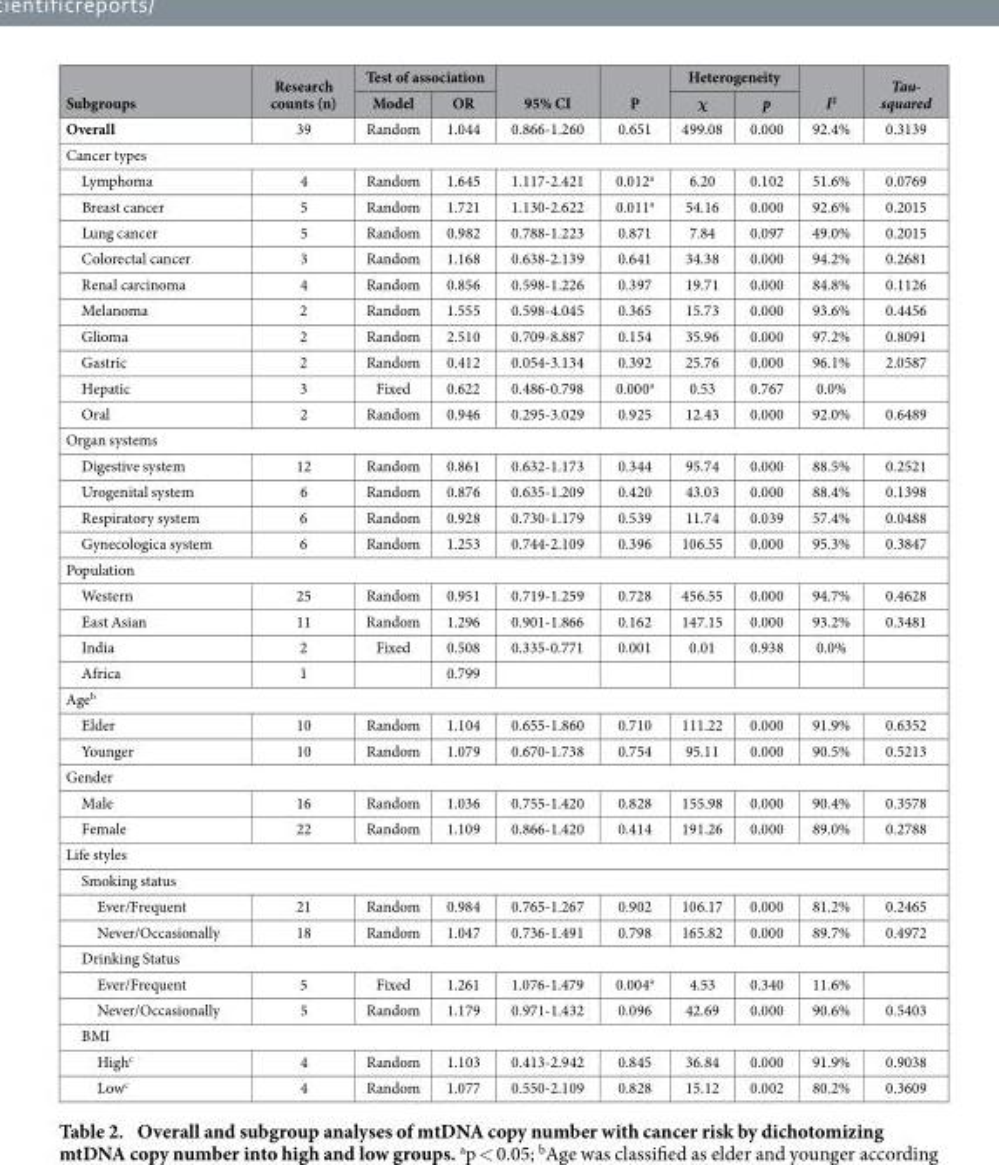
<table><thead><tr><td rowspan="2">Subgroups</td><td rowspan="2">Research counts (n)</td><td colspan="2">Test of association</td><td rowspan="2">95% CI</td><td rowspan="2">P</td><td colspan="2">Heterogeneity</td><td rowspan="2">I<sup>2</sup></td><td rowspan="2">Tau- squared</td></tr><tr><td>Model</td><td>OR</td><td>χ</td><td>p</td></tr></thead><tbody><tr><td>Overall</td><td>39</td><td>Random</td><td>1.044</td><td>0.866-1.260</td><td>0.651</td><td>499.08</td><td>0.000</td><td>92.4%</td><td>0.3139</td></tr><tr><td colspan="10">Cancer types</td></tr><tr><td>Lymphoma</td><td>4</td><td>Random</td><td>1.645</td><td>1.117-2.421</td><td>0.012<sup>a</sup></td><td>6.20</td><td>0.102</td><td>51.6%</td><td>0.0769</td></tr><tr><td>Breast cancer</td><td>5</td><td>Random</td><td>1.721</td><td>1.130-2.622</td><td>0.011<sup>a</sup></td><td>54.16</td><td>0.000</td><td>92.6%</td><td>0.2015</td></tr><tr><td>Lung cancer</td><td>5</td><td>Random</td><td>0.982</td><td>0.788-1.223</td><td>0.871</td><td>7.84</td><td>0.097</td><td>49.0%</td><td>0.2015</td></tr><tr><td>Colorectal cancer</td><td>3</td><td>Random</td><td>1.168</td><td>0.638-2.139</td><td>0.641</td><td>34.38</td><td>0.000</td><td>94.2%</td><td>0.2681</td></tr><tr><td>Renal carcinoma</td><td>4</td><td>Random</td><td>0.856</td><td>0.598-1.226</td><td>0.397</td><td>19.71</td><td>0.000</td><td>84.8%</td><td>0.1126</td></tr><tr><td>Melanoma</td><td>2</td><td>Random</td><td>1.555</td><td>0.598-4.045</td><td>0.365</td><td>15.73</td><td>0.000</td><td>93.6%</td><td>0.4456</td></tr><tr><td>Glioma</td><td>2</td><td>Random</td><td>2.510</td><td>0.709-8.887</td><td>0.154</td><td>35.96</td><td>0.000</td><td>97.2%</td><td>0.8091</td></tr><tr><td>Gastric</td><td>2</td><td>Random</td><td>0.412</td><td>0.054-3.134</td><td>0.392</td><td>25.76</td><td>0.000</td><td>96.1%</td><td>2.0587</td></tr><tr><td>Hepatic</td><td>3</td><td>Fixed</td><td>0.622</td><td>0.486-0.798</td><td>0.000<sup>a</sup></td><td>0.53</td><td>0.767</td><td>0.0%</td><td></td></tr><tr><td>Oral</td><td>2</td><td>Random</td><td>0.946</td><td>0.295-3.029</td><td>0.925</td><td>12.43</td><td>0.000</td><td>92.0%</td><td>0.6489</td></tr><tr><td colspan="10">Organ systems</td></tr><tr><td>Digestive system</td><td>12</td><td>Random</td><td>0.861</td><td>0.632-1.173</td><td>0.344</td><td>95.74</td><td>0.000</td><td>88.5%</td><td>0.2521</td></tr><tr><td>Urogenital system</td><td>6</td><td>Random</td><td>0.876</td><td>0.635-1.209</td><td>0.420</td><td>43.03</td><td>0.000</td><td>88.4%</td><td>0.1398</td></tr><tr><td>Respiratory system</td><td>6</td><td>Random</td><td>0.928</td><td>0.730-1.179</td><td>0.539</td><td>11.74</td><td>0.039</td><td>57.4%</td><td>0.0488</td></tr><tr><td>Gynecologica system</td><td>6</td><td>Random</td><td>1.253</td><td>0.744-2.109</td><td>0.396</td><td>106.55</td><td>0.000</td><td>95.3%</td><td>0.3847</td></tr><tr><td colspan="10">Population</td></tr><tr><td>Western</td><td>25</td><td>Random</td><td>0.951</td><td>0.719-1.259</td><td>0.728</td><td>456.55</td><td>0.000</td><td>94.7%</td><td>0.4628</td></tr><tr><td>East Asian</td><td>11</td><td>Random</td><td>1.296</td><td>0.901-1.866</td><td>0.162</td><td>147.15</td><td>0.000</td><td>93.2%</td><td>0.3481</td></tr><tr><td>India</td><td>2</td><td>Fixed</td><td>0.508</td><td>0.335-0.771</td><td>0.001</td><td>0.01</td><td>0.938</td><td>0.0%</td><td></td></tr><tr><td>Africa</td><td>1</td><td></td><td>0.799</td><td></td><td></td><td></td><td></td><td></td><td></td></tr><tr><td colspan="10">Age<sup>b</sup></td></tr><tr><td>Elder</td><td>10</td><td>Random</td><td>1.104</td><td>0.655-1.860</td><td>0.710</td><td>111.22</td><td>0.000</td><td>91.9%</td><td>0.6352</td></tr><tr><td>Younger</td><td>10</td><td>Random</td><td>1.079</td><td>0.670-1.738</td><td>0.754</td><td>95.11</td><td>0.000</td><td>90.5%</td><td>0.5213</td></tr><tr><td colspan="10">Gender</td></tr><tr><td>Male</td><td>16</td><td>Random</td><td>1.036</td><td>0.755-1.420</td><td>0.828</td><td>155.98</td><td>0.000</td><td>90.4%</td><td>0.3578</td></tr><tr><td>Female</td><td>22</td><td>Random</td><td>1.109</td><td>0.866-1.420</td><td>0.414</td><td>191.26</td><td>0.000</td><td>89.0%</td><td>0.2788</td></tr><tr><td colspan="10">Life styles</td></tr><tr><td colspan="10">Smoking status</td></tr><tr><td>Ever/Frequent</td><td>21</td><td>Random</td><td>0.984</td><td>0.765-1.267</td><td>0.902</td><td>106.17</td><td>0.000</td><td>81.2%</td><td>0.2465</td></tr><tr><td>Never/Occasionally</td><td>18</td><td>Random</td><td>1.047</td><td>0.736-1.491</td><td>0.798</td><td>165.82</td><td>0.000</td><td>89.7%</td><td>0.4972</td></tr><tr><td colspan="10">Drinking Status</td></tr><tr><td>Ever/Frequent</td><td>5</td><td>Fixed</td><td>1.261</td><td>1.076-1.479</td><td>0.004<sup>a</sup></td><td>4.53</td><td>0.340</td><td>11.6%</td><td></td></tr><tr><td>Never/Occasionally</td><td>5</td><td>Random</td><td>1.179</td><td>0.971-1.432</td><td>0.096</td><td>42.69</td><td>0.000</td><td>90.6%</td><td>0.5403</td></tr><tr><td colspan="10">BMI</td></tr><tr><td>High<sup>c</sup></td><td>4</td><td>Random</td><td>1.103</td><td>0.413-2.942</td><td>0.845</td><td>36.84</td><td>0.000</td><td>91.9%</td><td>0.9038</td></tr><tr><td>Low<sup>c</sup></td><td>4</td><td>Random</td><td>1.077</td><td>0.550-2.109</td><td>0.828</td><td>15.12</td><td>0.002</td><td>80.2%</td><td>0.3609</td></tr></tbody></table>